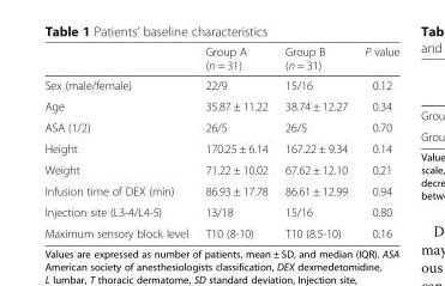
<table><thead><tr><td></td><td>Group A (n = 31)</td><td>Group B (n = 31)</td><td>P value</td></tr></thead><tbody><tr><td>Sex (male/female)</td><td>22/9</td><td>15/16</td><td>0.12</td></tr><tr><td>Age</td><td>35.87 ± 11.22</td><td>38.74 ± 12.27</td><td>0.34</td></tr><tr><td>ASA (1/2)</td><td>26/5</td><td>26/5</td><td>0.70</td></tr><tr><td>Height</td><td>170.25 ± 6.14</td><td>167.22 ± 9.34</td><td>0.14</td></tr><tr><td>Weight</td><td>71.22 ± 10.02</td><td>67.62 ± 12.10</td><td>0.21</td></tr><tr><td>Infusion time of DEX (min)</td><td>86.93 ± 17.78</td><td>86.61 ± 12.99</td><td>0.94</td></tr><tr><td>Injection site (L3-4/L4-5)</td><td>13/18</td><td>15/16</td><td>0.80</td></tr><tr><td>Maximum sensory block level</td><td>T10 (8-10)</td><td>T10 (8.5-10)</td><td>0.16</td></tr></tbody></table>